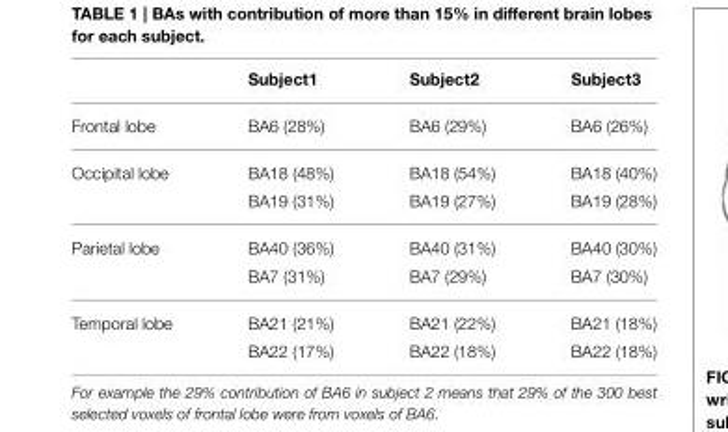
<table><thead><tr><td></td><td>Subject1</td><td>Subject2</td><td>Subject3</td></tr></thead><tbody><tr><td>Frontal lobe</td><td>BA6 (28%)</td><td>BA6 (29%)</td><td>BA6 (26%)</td></tr><tr><td rowspan="2">Occipital lobe</td><td>BA18 (48%)</td><td>BA18 (54%)</td><td>BA18 (40%)</td></tr><tr><td>BA19 (31%)</td><td>BA19 (27%)</td><td>BA19 (28%)</td></tr><tr><td rowspan="2">Parietal lobe</td><td>BA40 (36%)</td><td>BA40 (31%)</td><td>BA40 (30%)</td></tr><tr><td>BA7 (31%)</td><td>BA7 (29%)</td><td>BA7 (30%)</td></tr><tr><td rowspan="2">Temporal lobe</td><td>BA21 (21%)</td><td>BA21 (22%)</td><td>BA21 (18%)</td></tr><tr><td>BA22 (17%)</td><td>BA22 (18%)</td><td>BA22 (18%)</td></tr></tbody></table>